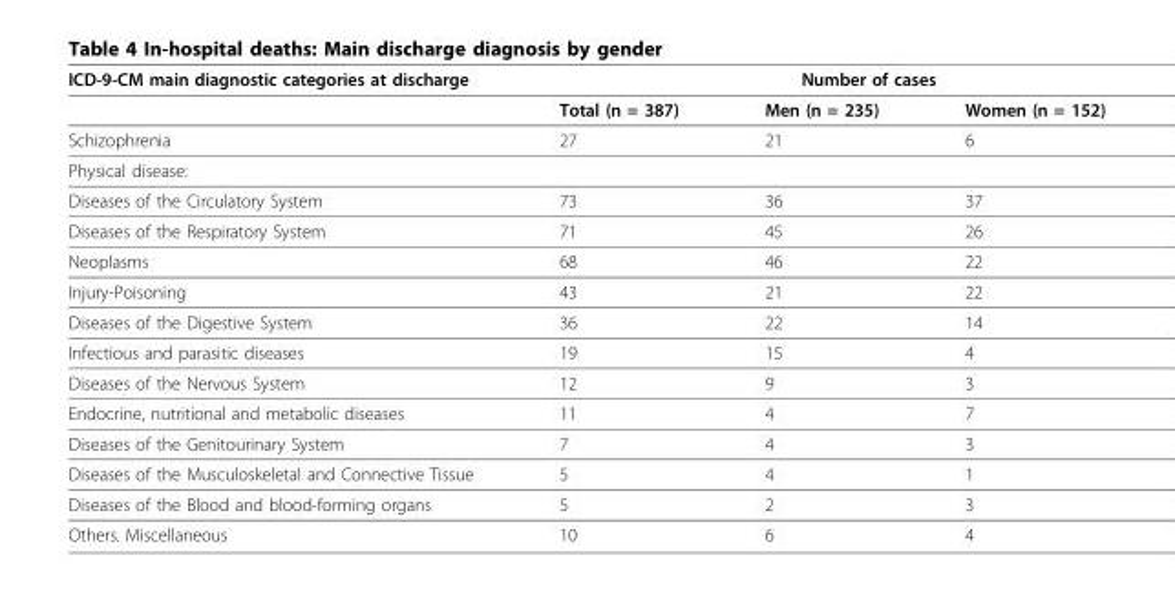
<table><thead><tr><td rowspan="2">ICD-9-CM main diagnostic categories at discharge</td><td colspan="3">Number of cases</td></tr><tr><td>Total (n = 387)</td><td>Men (n = 235)</td><td>Women (n = 152)</td></tr></thead><tbody><tr><td>Schizophrenia</td><td>27</td><td>21</td><td>6</td></tr><tr><td colspan="4">Physical disease:</td></tr><tr><td>Diseases of the Circulatory System</td><td>73</td><td>36</td><td>37</td></tr><tr><td>Diseases of the Respiratory System</td><td>71</td><td>45</td><td>26</td></tr><tr><td>Neoplasms</td><td>68</td><td>46</td><td>22</td></tr><tr><td>Injury-Poisoning</td><td>43</td><td>21</td><td>22</td></tr><tr><td>Diseases of the Digestive System</td><td>36</td><td>22</td><td>14</td></tr><tr><td>Infectious and parasitic diseases</td><td>19</td><td>15</td><td>4</td></tr><tr><td>Diseases of the Nervous System</td><td>12</td><td>9</td><td>3</td></tr><tr><td>Endocrine, nutritional and metabolic diseases</td><td>11</td><td>4</td><td>7</td></tr><tr><td>Diseases of the Genitourinary System</td><td>7</td><td>4</td><td>3</td></tr><tr><td>Diseases of the Musculoskeletal and Connective Tissue</td><td>5</td><td>4</td><td>1</td></tr><tr><td>Diseases of the Blood and blood-forming organs</td><td>5</td><td>2</td><td>3</td></tr><tr><td>Others. Miscellaneous</td><td>10</td><td>6</td><td>4</td></tr></tbody></table>